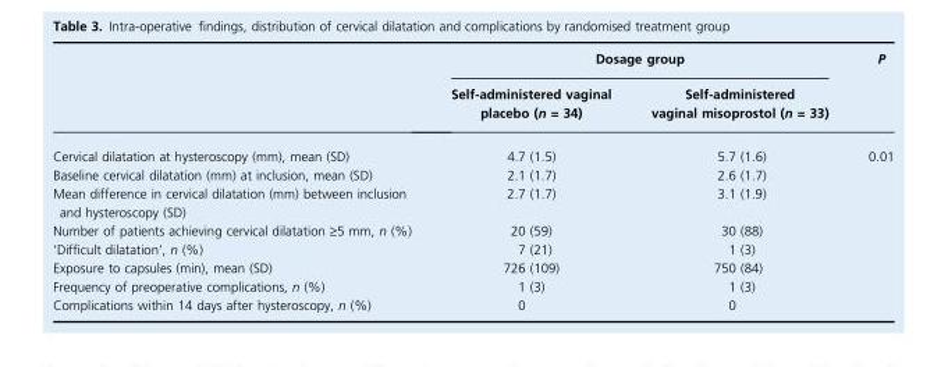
<table><thead><tr><td rowspan="2"></td><td colspan="2">Dosage group</td><td rowspan="2">P</td></tr><tr><td>Self-administered vaginal placebo (n = 34)</td><td>Self-administered vaginal misoprostol (n = 33)</td></tr></thead><tbody><tr><td>Cervical dilatation at hysteroscopy (mm), mean (SD)</td><td>4.7 (1.5)</td><td>5.7 (1.6)</td><td>0.01</td></tr><tr><td>Baseline cervical dilatation (mm) at inclusion, mean (SD)</td><td>2.1 (1.7)</td><td>2.6 (1.7)</td><td></td></tr><tr><td>Mean difference in cervical dilatation (mm) between inclusion and hysteroscopy (SD)</td><td>2.7 (1.7)</td><td>3.1 (1.9)</td><td></td></tr><tr><td>Number of patients achieving cervical dilatation ‡5 mm, n (%)</td><td>20 (59)</td><td>30 (88)</td><td></td></tr><tr><td>‘Difficult dilatation’, n (%)</td><td>7 (21)</td><td>1 (3)</td><td></td></tr><tr><td>Exposure to capsules (min), mean (SD)</td><td>726 (109)</td><td>750 (84)</td><td></td></tr><tr><td>Frequency of preoperative complications, n (%)</td><td>1 (3)</td><td>1 (3)</td><td></td></tr><tr><td>Complications within 14 days after hysteroscopy, n (%)</td><td>0</td><td>0</td><td></td></tr></tbody></table>